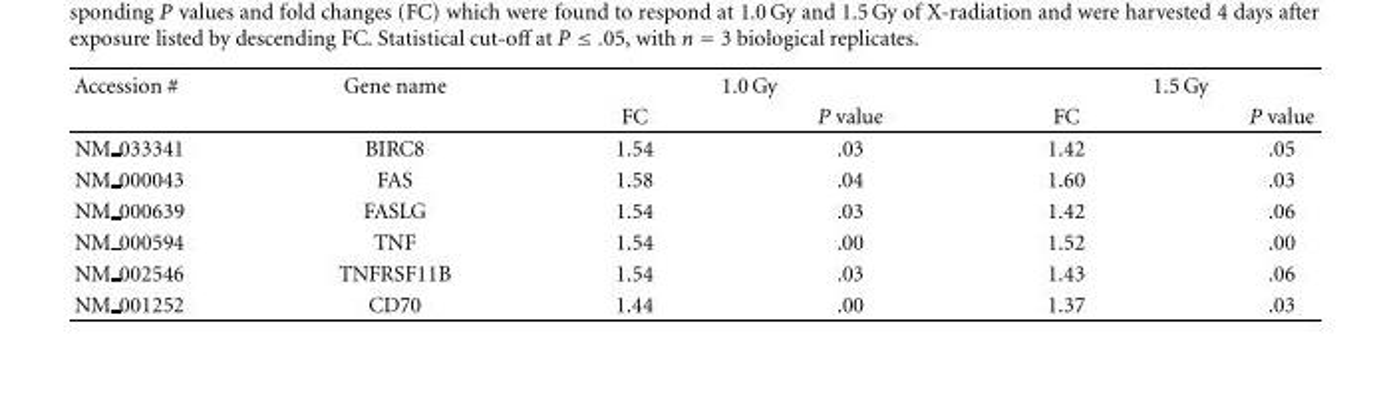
<table><thead><tr><td rowspan="2">Accession #</td><td rowspan="2">Gene name</td><td colspan="2">1.0 Gy</td><td colspan="2">1.5 Gy</td></tr><tr><td>FC</td><td>P value</td><td>FC</td><td>P value</td></tr></thead><tbody><tr><td>NM 033341</td><td>BIRC8</td><td>1.54</td><td>.03</td><td>1.42</td><td>.05</td></tr><tr><td>NM 000043</td><td>FAS</td><td>1.58</td><td>.04</td><td>1.60</td><td>.03</td></tr><tr><td>NM 000639</td><td>FASLG</td><td>1.54</td><td>.03</td><td>1.42</td><td>.06</td></tr><tr><td>NM 000594</td><td>TNF</td><td>1.54</td><td>.00</td><td>1.52</td><td>.00</td></tr><tr><td>NM 002546</td><td>TNFRSF11B</td><td>1.54</td><td>.03</td><td>1.43</td><td>.06</td></tr><tr><td>NM 001252</td><td>CD70</td><td>1.44</td><td>.00</td><td>1.37</td><td>.03</td></tr></tbody></table>